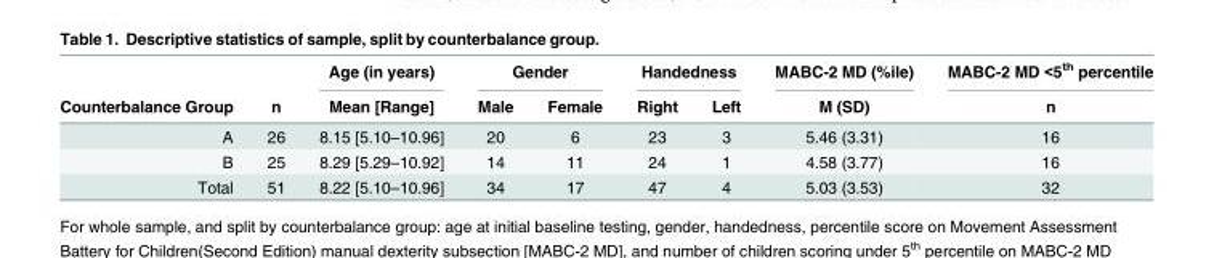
<table><thead><tr><td rowspan="2">Counterbalance Group</td><td rowspan="2">n</td><td rowspan="2">Age (in years) Mean [Range]</td><td colspan="2">Gender</td><td colspan="2">Handedness</td><td rowspan="2">MABC-2 MD (%ile) M (SD)</td><td rowspan="2">MABC-2 MD &lt;5<sup>th</sup> percentile n</td></tr><tr><td>Male</td><td>Female</td><td>Right</td><td>Left</td></tr></thead><tbody><tr><td>A</td><td>26</td><td>8.15 [5.10–10.96]</td><td>20</td><td>6</td><td>23</td><td>3</td><td>5.46 (3.31)</td><td>16</td></tr><tr><td>B</td><td>25</td><td>8.29 [5.29–10.92]</td><td>14</td><td>11</td><td>24</td><td>1</td><td>4.58 (3.77)</td><td>16</td></tr><tr><td>Total</td><td>51</td><td>8.22 [5.10–10.96]</td><td>34</td><td>17</td><td>47</td><td>4</td><td>5.03 (3.53)</td><td>32</td></tr></tbody></table>